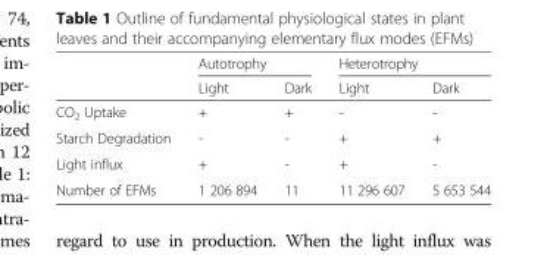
<table><thead><tr><td rowspan="2"></td><td colspan="2">Autotrophy</td><td colspan="2">Heterotrophy</td></tr><tr><td>Light</td><td>Dark</td><td>Light</td><td>Dark</td></tr></thead><tbody><tr><td>CO<sub>2</sub> Uptake</td><td>+</td><td>+</td><td>-</td><td>-</td></tr><tr><td>Starch Degradation</td><td>-</td><td>-</td><td>+</td><td>+</td></tr><tr><td>Light influx</td><td>+</td><td>-</td><td>+</td><td>-</td></tr><tr><td>Number of EFMs</td><td>1 206 894</td><td>11</td><td>11 296 607</td><td>5 653 544</td></tr></tbody></table>